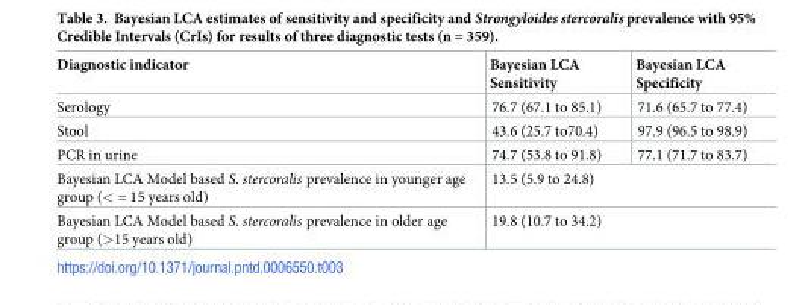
<table><thead><tr><td>Diagnostic indicator</td><td>Bayesian LCA Sensitivity</td><td>Bayesian LCA Specificity</td></tr></thead><tbody><tr><td>Serology</td><td>76.7 (67.1 to 85.1)</td><td>71.6 (65.7 to 77.4)</td></tr><tr><td>Stool</td><td>43.6 (25.7 to70.4)</td><td>97.9 (96.5 to 98.9)</td></tr><tr><td>PCR in urine</td><td>74.7 (53.8 to 91.8)</td><td>77.1 (71.7 to 83.7)</td></tr><tr><td>Bayesian LCA Model based S. stercoralis prevalence in younger age group (&lt; = 15 years old)</td><td colspan="2">13.5 (5.9 to 24.8)</td></tr><tr><td>Bayesian LCA Model based S. stercoralis prevalence in older age group (&gt;15 years old)</td><td colspan="2">19.8 (10.7 to 34.2)</td></tr></tbody></table>